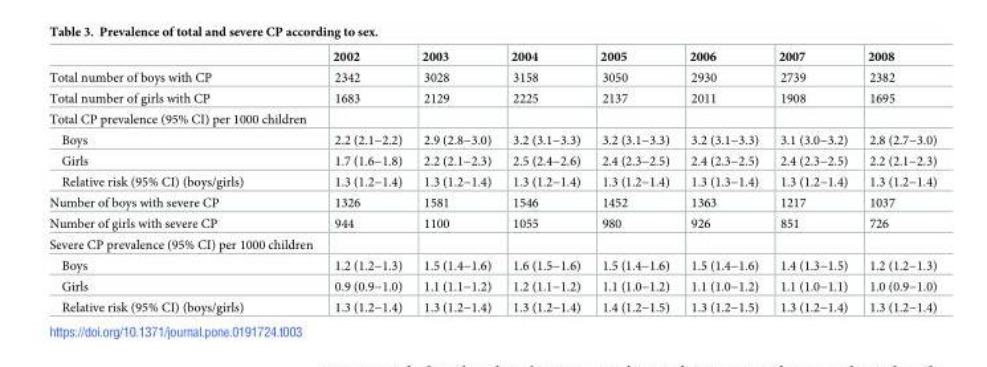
<table><thead><tr><td></td><td>2002</td><td>2003</td><td>2004</td><td>2005</td><td>2006</td><td>2007</td><td>2008</td></tr></thead><tbody><tr><td>Total number of boys with CP</td><td>2342</td><td>3028</td><td>3158</td><td>3050</td><td>2930</td><td>2739</td><td>2382</td></tr><tr><td>Total number of girls with CP</td><td>1683</td><td>2129</td><td>2225</td><td>2137</td><td>2011</td><td>1908</td><td>1695</td></tr><tr><td colspan="8">Total CP prevalence (95% CI) per 1000 children</td></tr><tr><td>Boys</td><td>2.2 (2.1−2.2)</td><td>2.9 (2.8−3.0)</td><td>3.2 (3.1−3.3)</td><td>3.2 (3.1−3.3)</td><td>3.2 (3.1−3.3)</td><td>3.1 (3.0−3.2)</td><td>2.8 (2.7−3.0)</td></tr><tr><td>Girls</td><td>1.7 (1.6−1.8)</td><td>2.2 (2.1−2.3)</td><td>2.5 (2.4−2.6)</td><td>2.4 (2.3−2.5)</td><td>2.4 (2.3−2.5)</td><td>2.4 (2.3−2.5)</td><td>2.2 (2.1−2.3)</td></tr><tr><td>Relative risk (95% CI) (boys/girls)</td><td>1.3 (1.2−1.4)</td><td>1.3 (1.2−1.4)</td><td>1.3 (1.2−1.4)</td><td>1.3 (1.2−1.4)</td><td>1.3 (1.3−1.4)</td><td>1.3 (1.2−1.4)</td><td>1.3 (1.2−1.4)</td></tr><tr><td>Number of boys with severe CP</td><td>1326</td><td>1581</td><td>1546</td><td>1452</td><td>1363</td><td>1217</td><td>1037</td></tr><tr><td>Number of girls with severe CP</td><td>944</td><td>1100</td><td>1055</td><td>980</td><td>926</td><td>851</td><td>726</td></tr><tr><td colspan="8">Severe CP prevalence (95% CI) per 1000 children</td></tr><tr><td>Boys</td><td>1.2 (1.2−1.3)</td><td>1.5 (1.4−1.6)</td><td>1.6 (1.5−1.6)</td><td>1.5 (1.4−1.6)</td><td>1.5 (1.4−1.6)</td><td>1.4 (1.3−1.5)</td><td>1.2 (1.2−1.3)</td></tr><tr><td>Girls</td><td>0.9 (0.9−1.0)</td><td>1.1 (1.1−1.2)</td><td>1.2 (1.1−1.2)</td><td>1.1 (1.0−1.2)</td><td>1.1 (1.0−1.2)</td><td>1.1 (1.0−1.1)</td><td>1.0 (0.9−1.0)</td></tr><tr><td>Relative risk (95% CI) (boys/girls)</td><td>1.3 (1.2−1.4)</td><td>1.3 (1.2−1.4)</td><td>1.3 (1.2−1.4)</td><td>1.4 (1.2−1.5)</td><td>1.3 (1.2−1.5)</td><td>1.3 (1.2−1.4)</td><td>1.3 (1.2−1.4)</td></tr></tbody></table>